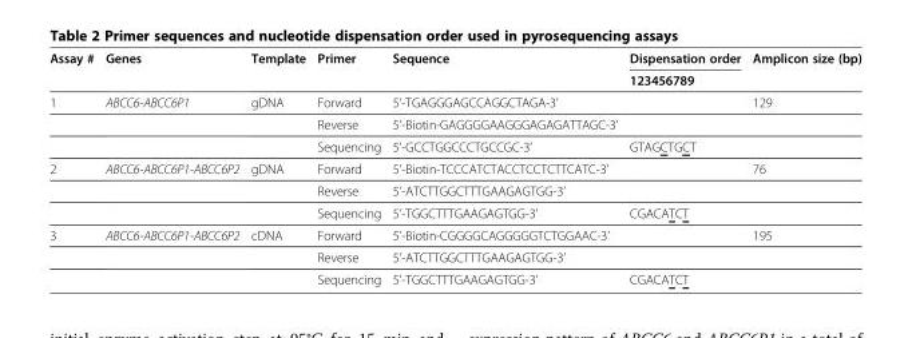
<table><thead><tr><td rowspan="2">Assay #</td><td rowspan="2">Genes</td><td rowspan="2">Template</td><td rowspan="2">Primer</td><td rowspan="2">Sequence</td><td rowspan="2">Dispensation order 123456789</td><td rowspan="2">Amplicon size (bp)</td></tr><tr></tr></thead><tbody><tr><td rowspan="3">1</td><td>ABCC6-ABCC6P1</td><td>gDNA</td><td>Forward</td><td>5’-TGAGGGAGCCAGGCTAGA-3’</td><td></td><td>129</td></tr><tr><td></td><td></td><td>Reverse</td><td>5’-Biotin-GAGGGGAAGGGAGAGATTAGC-3’</td><td></td><td></td></tr><tr><td></td><td></td><td>Sequencing</td><td>5’-GCCTGGCCCTGCCGC-3’</td><td>GTAGCTGCT</td><td></td></tr><tr><td rowspan="3">2</td><td>ABCC6-ABCC6P1-ABCC6P2</td><td>gDNA</td><td>Forward</td><td>5’-Biotin-TCCCATCTACCTCCTCTTCATC-3’</td><td></td><td>76</td></tr><tr><td></td><td></td><td>Reverse</td><td>5’-ATCTTGGCTTTGAAGAGTGG-3’</td><td></td><td></td></tr><tr><td></td><td></td><td>Sequencing</td><td>5’-TGGCTTTGAAGAGTGG-3’</td><td>CGACATCT</td><td></td></tr><tr><td rowspan="3">3</td><td>ABCC6-ABCC6P1-ABCC6P2</td><td>cDNA</td><td>Forward</td><td>5’-Biotin-CGGGGCAGGGGGTCTGGAAC-3’</td><td></td><td>195</td></tr><tr><td></td><td></td><td>Reverse</td><td>5’-ATCTTGGCTTTGAAGAGTGG-3’</td><td></td><td></td></tr><tr><td></td><td></td><td>Sequencing</td><td>5’-TGGCTTTGAAGAGTGG-3’</td><td>CGACATCT</td><td></td></tr></tbody></table>